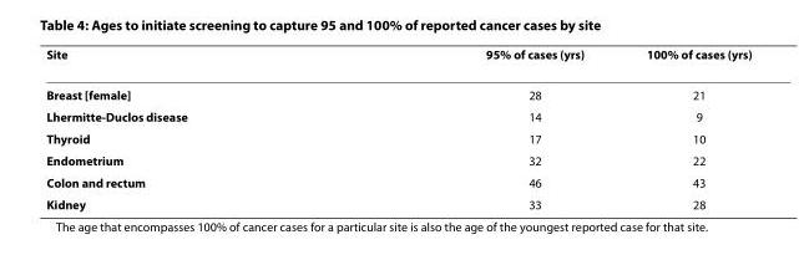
<table><thead><tr><td>Site</td><td>95% of cases (yrs)</td><td>100% of cases (yrs)</td></tr></thead><tbody><tr><td>Breast [female]</td><td>28</td><td>21</td></tr><tr><td>Lhermitte-Duclos disease</td><td>14</td><td>9</td></tr><tr><td>Thyroid</td><td>17</td><td>10</td></tr><tr><td>Endometrium</td><td>32</td><td>22</td></tr><tr><td>Colon and rectum</td><td>46</td><td>43</td></tr><tr><td>Kidney</td><td>33</td><td>28</td></tr></tbody></table>